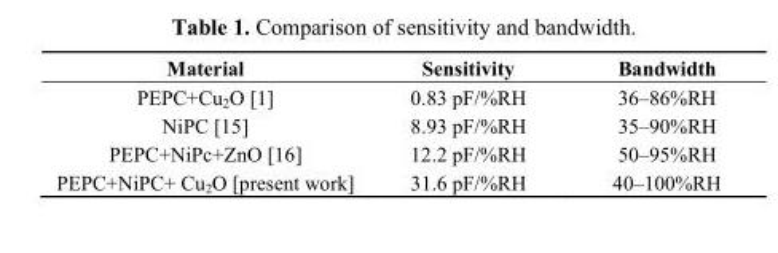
<table><thead><tr><td>Material</td><td>Sensitivity</td><td>Bandwidth</td></tr></thead><tbody><tr><td>PEPC+Cu<sub>2</sub>O [1]</td><td>0.83 pF/%RH</td><td>36–86%RH</td></tr><tr><td>NiPC [15]</td><td>8.93 pF/%RH</td><td>35–90%RH</td></tr><tr><td>PEPC+NiPc+ZnO [16]</td><td>12.2 pF/%RH</td><td>50–95%RH</td></tr><tr><td>PEPC+NiPC+ Cu<sub>2</sub>O [present work]</td><td>31.6 pF/%RH</td><td>40–100%RH</td></tr></tbody></table>